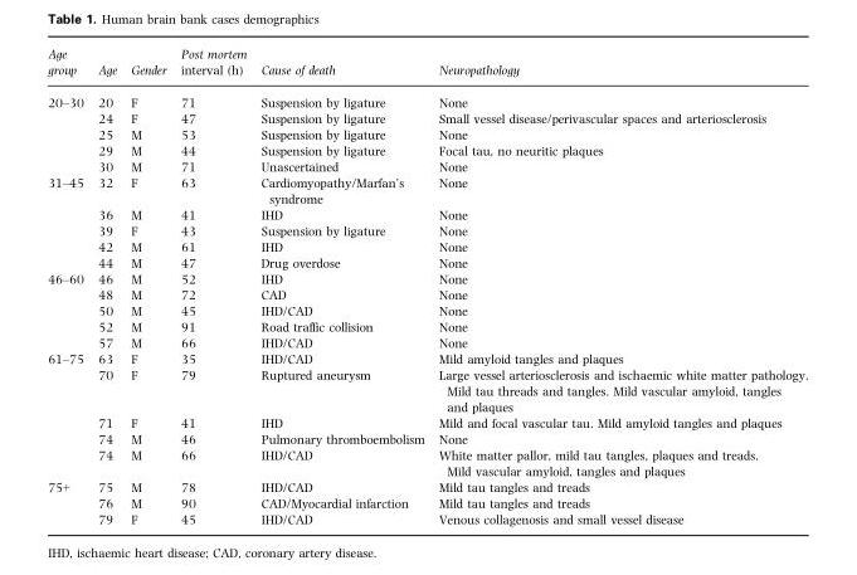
<table><thead><tr><td>Age group</td><td>Age</td><td>Gender</td><td>Post mortem interval (h)</td><td>Cause of death</td><td>Neuropathology</td></tr></thead><tbody><tr><td rowspan="5">20–30</td><td>20</td><td>F</td><td>71</td><td>Suspension by ligature</td><td>None</td></tr><tr><td>24</td><td>F</td><td>47</td><td>Suspension by ligature</td><td>Small vessel disease/perivascular spaces and arteriosclerosis</td></tr><tr><td>25</td><td>M</td><td>53</td><td>Suspension by ligature</td><td>None</td></tr><tr><td>29</td><td>M</td><td>44</td><td>Suspension by ligature</td><td>Focal tau, no neuritic plaques</td></tr><tr><td>30</td><td>M</td><td>71</td><td>Unascertained</td><td>None</td></tr><tr><td rowspan="5">31–45</td><td>32</td><td>F</td><td>63</td><td>Cardiomyopathy/Marfan’s syndrome</td><td>None</td></tr><tr><td>36</td><td>M</td><td>41</td><td>IHD</td><td>None</td></tr><tr><td>39</td><td>F</td><td>43</td><td>Suspension by ligature</td><td>None</td></tr><tr><td>42</td><td>M</td><td>61</td><td>IHD</td><td>None</td></tr><tr><td>44</td><td>M</td><td>47</td><td>Drug overdose</td><td>None</td></tr><tr><td rowspan="5">46–60</td><td>46</td><td>M</td><td>52</td><td>IHD</td><td>None</td></tr><tr><td>48</td><td>M</td><td>72</td><td>CAD</td><td>None</td></tr><tr><td>50</td><td>M</td><td>45</td><td>IHD/CAD</td><td>None</td></tr><tr><td>52</td><td>M</td><td>91</td><td>Road traffic collision</td><td>None</td></tr><tr><td>57</td><td>M</td><td>66</td><td>IHD/CAD</td><td>None</td></tr><tr><td rowspan="5">61–75</td><td>63</td><td>F</td><td>35</td><td>IHD/CAD</td><td>Mild amyloid tangles and plaques</td></tr><tr><td>70</td><td>F</td><td>79</td><td>Ruptured aneurysm</td><td>Large vessel arteriosclerosis and ischaemic white matter pathology. Mild tau threads and tangles. Mild vascular amyloid, tangles and plaques</td></tr><tr><td>71</td><td>F</td><td>41</td><td>IHD</td><td>Mild and focal vascular tau. Mild amyloid tangles and plaques</td></tr><tr><td>74</td><td>M</td><td>46</td><td>Pulmonary thromboembolism</td><td>None</td></tr><tr><td>74</td><td>M</td><td>66</td><td>IHD/CAD</td><td>White matter pallor, mild tau tangles, plaques and treads. Mild vascular amyloid, tangles and plaques</td></tr><tr><td rowspan="3">75+</td><td>75</td><td>M</td><td>78</td><td>IHD/CAD</td><td>Mild tau tangles and treads</td></tr><tr><td>76</td><td>M</td><td>90</td><td>CAD/Myocardial infarction</td><td>Mild tau tangles and treads</td></tr><tr><td>79</td><td>F</td><td>45</td><td>IHD/CAD</td><td>Venous collagenosis and small vessel disease</td></tr></tbody></table>